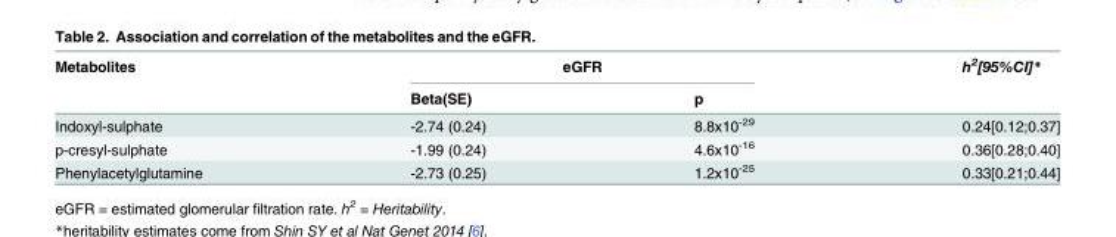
<table><thead><tr><td rowspan="2">Metabolites</td><td colspan="2">eGFR</td><td rowspan="2">h<sup>2</sup>[95%CI]*</td></tr><tr><td>Beta(SE)</td><td>p</td></tr></thead><tbody><tr><td>Indoxyl-sulphate</td><td>-2.74 (0.24)</td><td>8.8x10<sup>-29</sup></td><td>0.24[0.12;0.37]</td></tr><tr><td>p-cresyl-sulphate</td><td>-1.99 (0.24)</td><td>4.6x10<sup>-16</sup></td><td>0.36[0.28;0.40]</td></tr><tr><td>Phenylacetylglutamine</td><td>-2.73 (0.25)</td><td>1.2x10<sup>-25</sup></td><td>0.33[0.21;0.44]</td></tr></tbody></table>